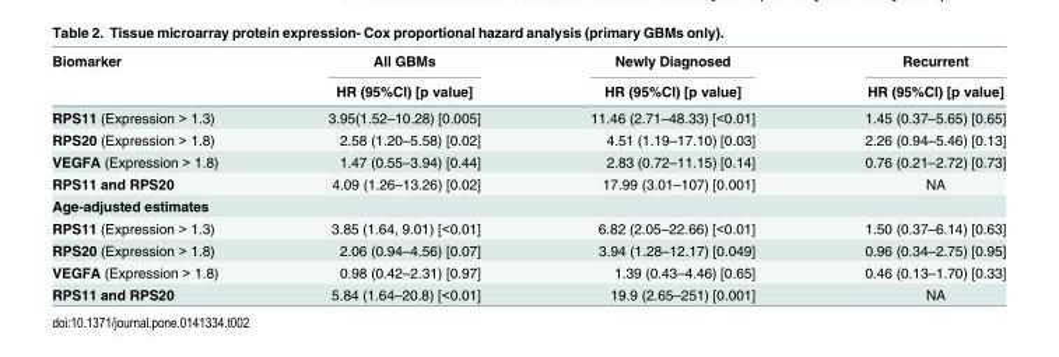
<table><thead><tr><td rowspan="2">Biomarker</td><td rowspan="2">All GBMs HR (95%CI) [p value]</td><td rowspan="2">Newly Diagnosed HR (95%CI) [p value]</td><td rowspan="2">Recurrent HR (95%CI) [p value]</td></tr><tr></tr></thead><tbody><tr><td>RPS11 (Expression &gt; 1.3)</td><td>3.95(1.52–10.28) [0.005]</td><td>11.46 (2.71–48.33) [&lt;0.01]</td><td>1.45 (0.37–5.65) [0.65]</td></tr><tr><td>RPS20 (Expression &gt; 1.8)</td><td>2.58 (1.20–5.58) [0.02]</td><td>4.51 (1.19–17.10) [0.03]</td><td>2.26 (0.94–5.46) [0.13]</td></tr><tr><td>VEGFA (Expression &gt; 1.8)</td><td>1.47 (0.55–3.94) [0.44]</td><td>2.83 (0.72–11.15) [0.14]</td><td>0.76 (0.21–2.72) [0.73]</td></tr><tr><td>RPS11 and RPS20</td><td>4.09 (1.26–13.26) [0.02]</td><td>17.99 (3.01–107) [0.001]</td><td>NA</td></tr><tr><td colspan="4">Age-adjusted estimates</td></tr><tr><td>RPS11 (Expression &gt; 1.3)</td><td>3.85 (1.64, 9.01) [&lt;0.01]</td><td>6.82 (2.05–22.66) [&lt;0.01]</td><td>1.50 (0.37–6.14) [0.63]</td></tr><tr><td>RPS20 (Expression &gt; 1.8)</td><td>2.06 (0.94–4.56) [0.07]</td><td>3.94 (1.28–12.17) [0.049]</td><td>0.96 (0.34–2.75) [0.95]</td></tr><tr><td>VEGFA (Expression &gt; 1.8)</td><td>0.98 (0.42–2.31) [0.97]</td><td>1.39 (0.43–4.46) [0.65]</td><td>0.46 (0.13–1.70) [0.33]</td></tr><tr><td>RPS11 and RPS20</td><td>5.84 (1.64–20.8) [&lt;0.01]</td><td>19.9 (2.65–251) [0.001]</td><td>NA</td></tr></tbody></table>